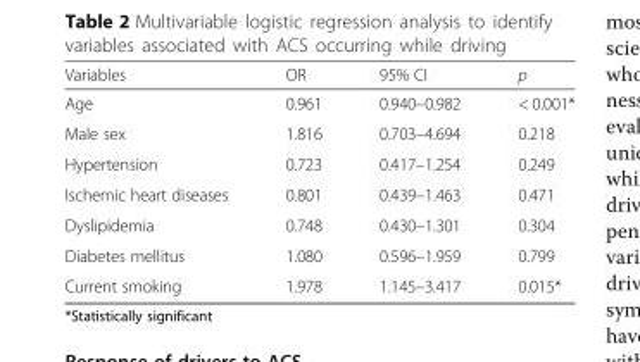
<table><thead><tr><td>Variables</td><td>OR</td><td>95% CI</td><td>p</td></tr></thead><tbody><tr><td>Age</td><td>0.961</td><td>0.940–0.982</td><td>&lt; 0.001*</td></tr><tr><td>Male sex</td><td>1.816</td><td>0.703–4.694</td><td>0.218</td></tr><tr><td>Hypertension</td><td>0.723</td><td>0.417–1.254</td><td>0.249</td></tr><tr><td>Ischemic heart diseases</td><td>0.801</td><td>0.439–1.463</td><td>0.471</td></tr><tr><td>Dyslipidemia</td><td>0.748</td><td>0.430–1.301</td><td>0.304</td></tr><tr><td>Diabetes mellitus</td><td>1.080</td><td>0.596–1.959</td><td>0.799</td></tr><tr><td>Current smoking</td><td>1.978</td><td>1.145–3.417</td><td>0.015*</td></tr></tbody></table>